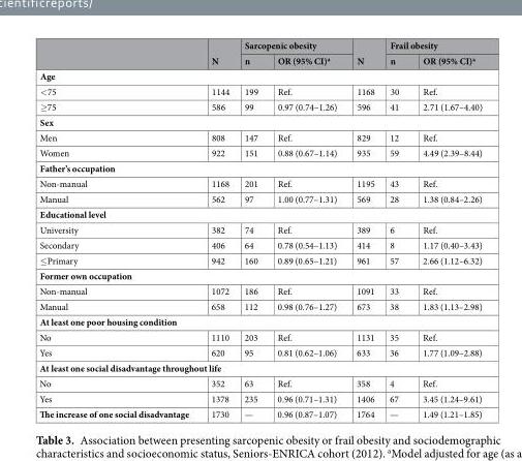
<table><thead><tr><td rowspan="2"></td><td rowspan="2">N</td><td colspan="2">Sarcopenic obesity</td><td rowspan="2">N</td><td colspan="2">Frail obesity</td></tr><tr><td>n</td><td>OR (95% CI)<sup>a</sup></td><td>n</td><td>OR (95% CI)<sup>a</sup></td></tr></thead><tbody><tr><td colspan="7">Age</td></tr><tr><td>&lt;75</td><td>1144</td><td>199</td><td>Ref.</td><td>1168</td><td>30</td><td>Ref.</td></tr><tr><td>≥75</td><td>586</td><td>99</td><td>0.97 (0.74–1.26)</td><td>596</td><td>41</td><td>2.71 (1.67–4.40)</td></tr><tr><td colspan="7">Sex</td></tr><tr><td>Men</td><td>808</td><td>147</td><td>Ref.</td><td>829</td><td>12</td><td>Ref.</td></tr><tr><td>Women</td><td>922</td><td>151</td><td>0.88 (0.67–1.14)</td><td>935</td><td>59</td><td>4.49 (2.39–8.44)</td></tr><tr><td colspan="7">Father’s occupation</td></tr><tr><td>Non-manual</td><td>1168</td><td>201</td><td>Ref.</td><td>1195</td><td>43</td><td>Ref.</td></tr><tr><td>Manual</td><td>562</td><td>97</td><td>1.00 (0.77–1.31)</td><td>569</td><td>28</td><td>1.38 (0.84–2.26)</td></tr><tr><td colspan="7">Educational level</td></tr><tr><td>University</td><td>382</td><td>74</td><td>Ref.</td><td>389</td><td>6</td><td>Ref.</td></tr><tr><td>Secondary</td><td>406</td><td>64</td><td>0.78 (0.54–1.13)</td><td>414</td><td>8</td><td>1.17 (0.40–3.43)</td></tr><tr><td>≤Primary</td><td>942</td><td>160</td><td>0.89 (0.65–1.21)</td><td>961</td><td>57</td><td>2.66 (1.12–6.32)</td></tr><tr><td colspan="7">Former own occupation</td></tr><tr><td>Non-manual</td><td>1072</td><td>186</td><td>Ref.</td><td>1091</td><td>33</td><td>Ref.</td></tr><tr><td>Manual</td><td>658</td><td>112</td><td>0.98 (0.76–1.27)</td><td>673</td><td>38</td><td>1.83 (1.13–2.98)</td></tr><tr><td colspan="7">At least one poor housing condition</td></tr><tr><td>No</td><td>1110</td><td>203</td><td>Ref.</td><td>1131</td><td>35</td><td>Ref.</td></tr><tr><td>Yes</td><td>620</td><td>95</td><td>0.81 (0.62–1.06)</td><td>633</td><td>36</td><td>1.77 (1.09–2.88)</td></tr><tr><td colspan="7">At least one social disadvantage throughout life</td></tr><tr><td>No</td><td>352</td><td>63</td><td>Ref.</td><td>358</td><td>4</td><td>Ref.</td></tr><tr><td>Yes</td><td>1378</td><td>235</td><td>0.96 (0.71–1.31)</td><td>1406</td><td>67</td><td>3.45 (1.24–9.61)</td></tr><tr><td>The increase of one social disadvantage</td><td>1730</td><td>—</td><td>0.96 (0.87–1.07)</td><td>1764</td><td>—</td><td>1.49 (1.21–1.85)</td></tr></tbody></table>